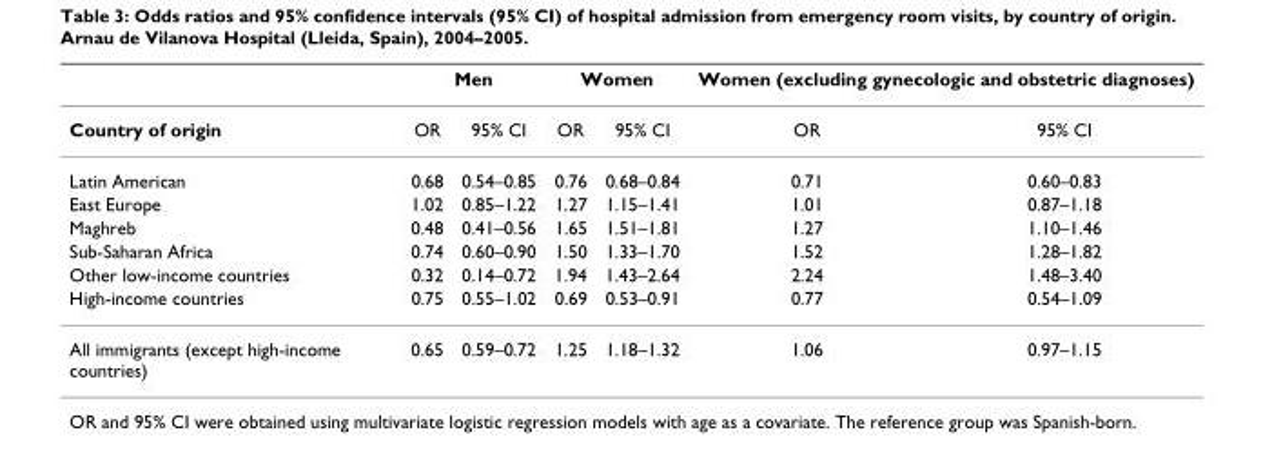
<table><thead><tr><td rowspan="2">Country of origin</td><td colspan="2">Men</td><td colspan="2">Women</td><td colspan="2">Women (excluding gynecologic and obstetric diagnoses)</td></tr><tr><td>OR</td><td>95% CI</td><td>OR</td><td>95% CI</td><td>OR</td><td>95% CI</td></tr></thead><tbody><tr><td>Latin American</td><td>0.68</td><td>0.54–0.85</td><td>0.76</td><td>0.68–0.84</td><td>0.71</td><td>0.60–0.83</td></tr><tr><td>East Europe</td><td>1.02</td><td>0.85–1.22</td><td>1.27</td><td>1.15–1.41</td><td>1.01</td><td>0.87–1.18</td></tr><tr><td>Maghreb</td><td>0.48</td><td>0.41–0.56</td><td>1.65</td><td>1.51–1.81</td><td>1.27</td><td>1.10–1.46</td></tr><tr><td>Sub-Saharan Africa</td><td>0.74</td><td>0.60–0.90</td><td>1.50</td><td>1.33–1.70</td><td>1.52</td><td>1.28–1.82</td></tr><tr><td>Other low-income countries</td><td>0.32</td><td>0.14–0.72</td><td>1.94</td><td>1.43–2.64</td><td>2.24</td><td>1.48–3.40</td></tr><tr><td>High-income countries</td><td>0.75</td><td>0.55–1.02</td><td>0.69</td><td>0.53–0.91</td><td>0.77</td><td>0.54–1.09</td></tr><tr><td>All immigrants (except high-income countries)</td><td>0.65</td><td>0.59–0.72</td><td>1.25</td><td>1.18–1.32</td><td>1.06</td><td>0.97–1.15</td></tr></tbody></table>